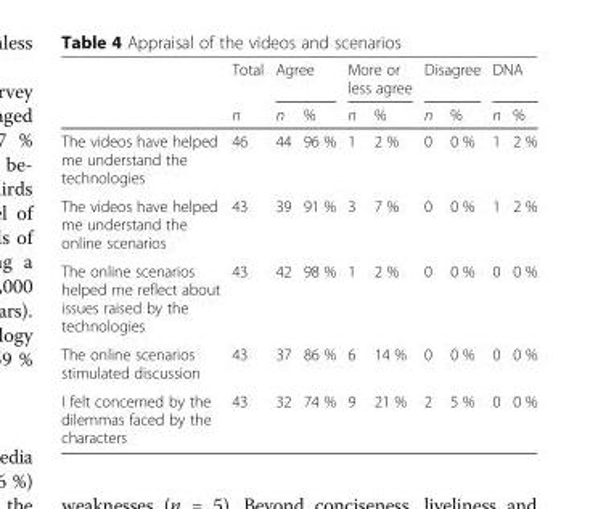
<table><thead><tr><td rowspan="2"></td><td rowspan="2">Total n</td><td colspan="2">Agree</td><td colspan="2">More or less agree</td><td colspan="2">Disagree</td><td colspan="2">DNA</td></tr><tr><td>n</td><td>%</td><td>n</td><td>%</td><td>n</td><td>%</td><td>n</td><td>%</td></tr></thead><tbody><tr><td>The videos have helped me understand the technologies</td><td>46</td><td>44</td><td>96 %</td><td>1</td><td>2 %</td><td>0</td><td>0 %</td><td>1</td><td>2 %</td></tr><tr><td>The videos have helped me understand the online scenarios</td><td>43</td><td>39</td><td>91 %</td><td>3</td><td>7 %</td><td>0</td><td>0 %</td><td>1</td><td>2 %</td></tr><tr><td>The online scenarios helped me reflect about issues raised by the technologies</td><td>43</td><td>42</td><td>98 %</td><td>1</td><td>2 %</td><td>0</td><td>0 %</td><td>0</td><td>0 %</td></tr><tr><td>The online scenarios stimulated discussion</td><td>43</td><td>37</td><td>86 %</td><td>6</td><td>14 %</td><td>0</td><td>0 %</td><td>0</td><td>0 %</td></tr><tr><td>I felt concerned by the dilemmas faced by the characters</td><td>43</td><td>32</td><td>74 %</td><td>9</td><td>21 %</td><td>2</td><td>5 %</td><td>0</td><td>0 %</td></tr></tbody></table>